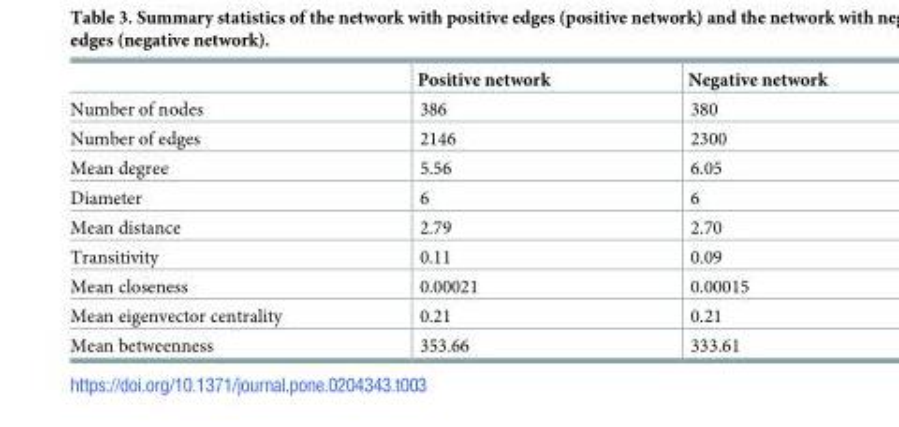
<table><thead><tr><td></td><td>Positive network</td><td>Negative network</td></tr></thead><tbody><tr><td>Number of nodes</td><td>386</td><td>380</td></tr><tr><td>Number of edges</td><td>2146</td><td>2300</td></tr><tr><td>Mean degree</td><td>5.56</td><td>6.05</td></tr><tr><td>Diameter</td><td>6</td><td>6</td></tr><tr><td>Mean distance</td><td>2.79</td><td>2.70</td></tr><tr><td>Transitivity</td><td>0.11</td><td>0.09</td></tr><tr><td>Mean closeness</td><td>0.00021</td><td>0.00015</td></tr><tr><td>Mean eigenvector centrality</td><td>0.21</td><td>0.21</td></tr><tr><td>Mean betweenness</td><td>353.66</td><td>333.61</td></tr></tbody></table>